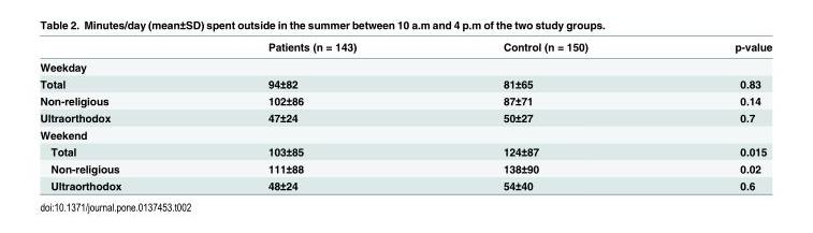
<table><thead><tr><td></td><td>Patients (n = 143)</td><td>Control (n = 150)</td><td>p-value</td></tr></thead><tbody><tr><td colspan="4">Weekday</td></tr><tr><td>Total</td><td>94±82</td><td>81±65</td><td>0.83</td></tr><tr><td>Non-religious</td><td>102±86</td><td>87±71</td><td>0.14</td></tr><tr><td>Ultraorthodox</td><td>47±24</td><td>50±27</td><td>0.7</td></tr><tr><td colspan="4">Weekend</td></tr><tr><td>Total</td><td>103±85</td><td>124±87</td><td>0.015</td></tr><tr><td>Non-religious</td><td>111±88</td><td>138±90</td><td>0.02</td></tr><tr><td>Ultraorthodox</td><td>48±24</td><td>54±40</td><td>0.6</td></tr></tbody></table>